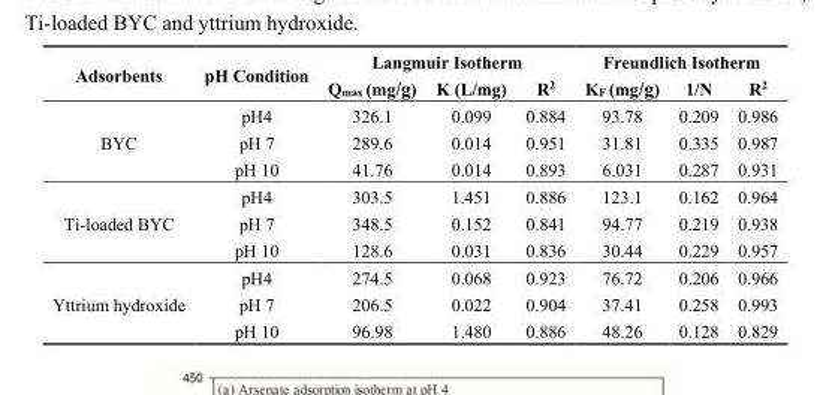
<table><thead><tr><td rowspan="2">Adsorbents</td><td rowspan="2">pH Condition</td><td colspan="3">Langmuir Isotherm</td><td colspan="3">Freundlich Isotherm</td></tr><tr><td>Q<sub>max</sub> (mg/g)</td><td>K (L/mg)</td><td>R<sup>2</sup></td><td>K<sub>F</sub> (mg/g)</td><td>1/N</td><td>R<sup>2</sup></td></tr></thead><tbody><tr><td rowspan="3">BYC</td><td>pH4</td><td>326.1</td><td>0.099</td><td>0.884</td><td>93.78</td><td>0.209</td><td>0.986</td></tr><tr><td>pH 7</td><td>289.6</td><td>0.014</td><td>0.951</td><td>31.81</td><td>0.335</td><td>0.987</td></tr><tr><td>pH 10</td><td>41.76</td><td>0.014</td><td>0.893</td><td>6.031</td><td>0.287</td><td>0.931</td></tr><tr><td rowspan="3">Ti-loaded BYC</td><td>pH4</td><td>303.5</td><td>1.451</td><td>0.886</td><td>123.1</td><td>0.162</td><td>0.964</td></tr><tr><td>pH 7</td><td>348.5</td><td>0.152</td><td>0.841</td><td>94.77</td><td>0.219</td><td>0.938</td></tr><tr><td>pH 10</td><td>128.6</td><td>0.031</td><td>0.836</td><td>30.44</td><td>0.229</td><td>0.957</td></tr><tr><td rowspan="3">Yttrium hydroxide</td><td>pH4</td><td>274.5</td><td>0.068</td><td>0.923</td><td>76.72</td><td>0.206</td><td>0.966</td></tr><tr><td>pH 7</td><td>206.5</td><td>0.022</td><td>0.904</td><td>37.41</td><td>0.258</td><td>0.993</td></tr><tr><td>pH 10</td><td>96.98</td><td>1.480</td><td>0.886</td><td>48.26</td><td>0.128</td><td>0.829</td></tr></tbody></table>